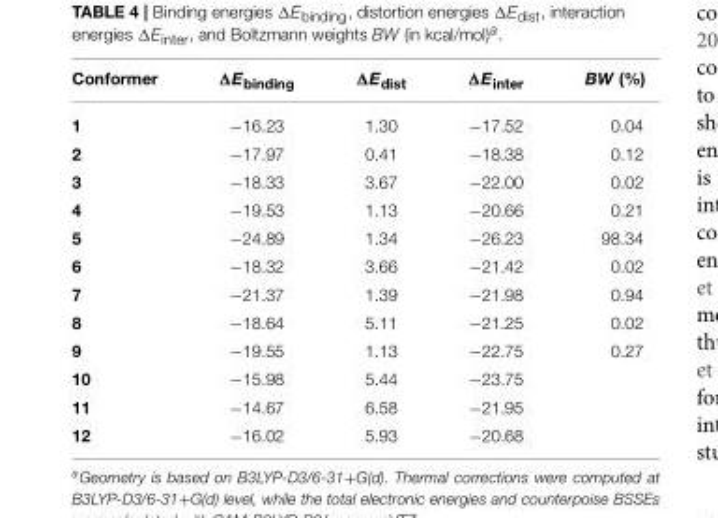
<table><thead><tr><td>Conformer</td><td>ΔE<sub>binding</sub></td><td>ΔE<sub>dist</sub></td><td>ΔE<sub>inter</sub></td><td>BW (%)</td></tr></thead><tbody><tr><td>1</td><td>−16.23</td><td>1.30</td><td>−17.52</td><td>0.04</td></tr><tr><td>2</td><td>−17.97</td><td>0.41</td><td>−18.38</td><td>0.12</td></tr><tr><td>3</td><td>−18.33</td><td>3.67</td><td>−22.00</td><td>0.02</td></tr><tr><td>4</td><td>−19.53</td><td>1.13</td><td>−20.66</td><td>0.21</td></tr><tr><td>5</td><td>−24.89</td><td>1.34</td><td>−26.23</td><td>98.34</td></tr><tr><td>6</td><td>−18.32</td><td>3.66</td><td>−21.42</td><td>0.02</td></tr><tr><td>7</td><td>−21.37</td><td>1.39</td><td>−21.98</td><td>0.94</td></tr><tr><td>8</td><td>−18.64</td><td>5.11</td><td>−21.25</td><td>0.02</td></tr><tr><td>9</td><td>−19.55</td><td>1.13</td><td>−22.75</td><td>0.27</td></tr><tr><td>10</td><td>−15.98</td><td>5.44</td><td>−23.75</td><td></td></tr><tr><td>11</td><td>−14.67</td><td>6.58</td><td>−21.95</td><td></td></tr><tr><td>12</td><td>−16.02</td><td>5.93</td><td>−20.68</td><td></td></tr></tbody></table>